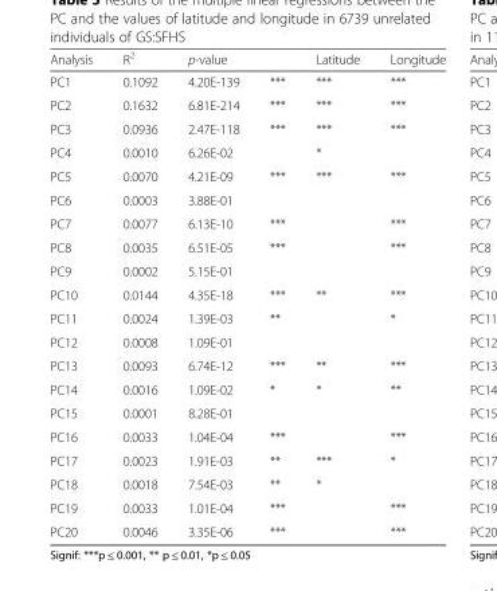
<table><thead><tr><td rowspan="2">Analysis PC1</td><td rowspan="2">R<sup>2</sup> 0.1092</td><td colspan="2">p-value</td><td rowspan="2">Latitude ***</td><td rowspan="2">Longitude ***</td></tr><tr><td>4.20E-139</td><td>***</td></tr></thead><tbody><tr><td>PC2</td><td>0.1632</td><td>6.81E-214</td><td>***</td><td>***</td><td>***</td></tr><tr><td>PC3</td><td>0.0936</td><td>2.47E-118</td><td>***</td><td>***</td><td>***</td></tr><tr><td>PC4</td><td>0.0010</td><td>6.26E-02</td><td></td><td>*</td><td></td></tr><tr><td>PC5</td><td>0.0070</td><td>4.21E-09</td><td>***</td><td>***</td><td>***</td></tr><tr><td>PC6</td><td>0.0003</td><td>3.88E-01</td><td></td><td></td><td></td></tr><tr><td>PC7</td><td>0.0077</td><td>6.13E-10</td><td>***</td><td></td><td>***</td></tr><tr><td>PC8</td><td>0.0035</td><td>6.51E-05</td><td>***</td><td></td><td>***</td></tr><tr><td>PC9</td><td>0.0002</td><td>5.15E-01</td><td></td><td></td><td></td></tr><tr><td>PC10</td><td>0.0144</td><td>4.35E-18</td><td>***</td><td>**</td><td>***</td></tr><tr><td>PC11</td><td>0.0024</td><td>1.39E-03</td><td>**</td><td></td><td>*</td></tr><tr><td>PC12</td><td>0.0008</td><td>1.09E-01</td><td></td><td></td><td></td></tr><tr><td>PC13</td><td>0.0093</td><td>6.74E-12</td><td>***</td><td>**</td><td>***</td></tr><tr><td>PC14</td><td>0.0016</td><td>1.09E-02</td><td>*</td><td>*</td><td>**</td></tr><tr><td>PC15</td><td>0.0001</td><td>8.28E-01</td><td></td><td></td><td></td></tr><tr><td>PC16</td><td>0.0033</td><td>1.04E-04</td><td>***</td><td></td><td>***</td></tr><tr><td>PC17</td><td>0.0023</td><td>1.91E-03</td><td>**</td><td>***</td><td>*</td></tr><tr><td>PC18</td><td>0.0018</td><td>7.54E-03</td><td>**</td><td>*</td><td></td></tr><tr><td>PC19</td><td>0.0033</td><td>1.01E-04</td><td>***</td><td></td><td>***</td></tr><tr><td>PC20</td><td>0.0046</td><td>3.35E-06</td><td>***</td><td></td><td>***</td></tr></tbody></table>